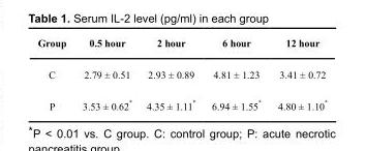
<table><thead><tr><td>Group</td><td>0.5 hour</td><td>2 hour</td><td>6 hour</td><td>12 hour</td></tr></thead><tbody><tr><td>C</td><td>2.79 ± 0.51</td><td>2.93 ± 0.89</td><td>4.81 ± 1.23</td><td>3.41 ± 0.72</td></tr><tr><td>P</td><td>3.53 ± 0.62 *</td><td>4.35 ± 1.11 *</td><td>6.94 ± 1.55 *</td><td>4.80 ± 1.10 *</td></tr></tbody></table>